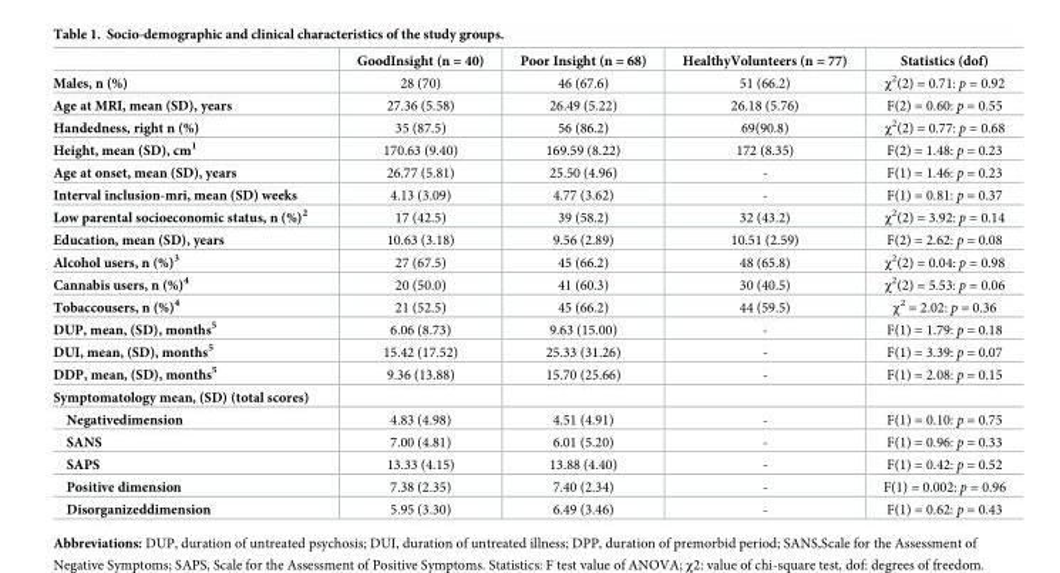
<table><thead><tr><td></td><td>GoodInsight (n = 40)</td><td>Poor Insight (n = 68)</td><td>HealthyVolunteers (n = 77)</td><td>Statistics (dof)</td></tr></thead><tbody><tr><td>Males, n (%)</td><td>28 (70)</td><td>46 (67.6)</td><td>51 (66.2)</td><td>χ<sup>2</sup>(2) = 0.71: p = 0.92</td></tr><tr><td>Age at MRI, mean (SD), years</td><td>27.36 (5.58)</td><td>26.49 (5.22)</td><td>26.18 (5.76)</td><td>F(2) = 0.60: p = 0.55</td></tr><tr><td>Handedness, right n (%)</td><td>35 (87.5)</td><td>56 (86.2)</td><td>69(90.8)</td><td>χ<sup>2</sup>(2) = 0.77: p = 0.68</td></tr><tr><td>Height, mean (SD), cm<sup>1</sup></td><td>170.63 (9.40)</td><td>169.59 (8.22)</td><td>172 (8.35)</td><td>F(2) = 1.48: p = 0.23</td></tr><tr><td>Age at onset, mean (SD), years</td><td>26.77 (5.81)</td><td>25.50 (4.96)</td><td>-</td><td>F(1) = 1.46: p = 0.23</td></tr><tr><td>Interval inclusion-mri, mean (SD) weeks</td><td>4.13 (3.09)</td><td>4.77 (3.62)</td><td>-</td><td>F(1) = 0.81: p = 0.37</td></tr><tr><td>Low parental socioeconomic status, n (%)<sup>2</sup></td><td>17 (42.5)</td><td>39 (58.2)</td><td>32 (43.2)</td><td>χ<sup>2</sup>(2) = 3.92: p = 0.14</td></tr><tr><td>Education, mean (SD), years</td><td>10.63 (3.18)</td><td>9.56 (2.89)</td><td>10.51 (2.59)</td><td>F(2) = 2.62: p = 0.08</td></tr><tr><td>Alcohol users, n (%)<sup>3</sup></td><td>27 (67.5)</td><td>45 (66.2)</td><td>48 (65.8)</td><td>χ<sup>2</sup>(2) = 0.04: p = 0.98</td></tr><tr><td>Cannabis users, n (%)<sup>4</sup></td><td>20 (50.0)</td><td>41 (60.3)</td><td>30 (40.5)</td><td>χ<sup>2</sup>(2) = 5.53: p = 0.06</td></tr><tr><td>Tobaccousers, n (%)<sup>4</sup></td><td>21 (52.5)</td><td>45 (66.2)</td><td>44 (59.5)</td><td>χ<sup>2</sup> = 2.02: p = 0.36</td></tr><tr><td>DUP, mean, (SD), months<sup>5</sup></td><td>6.06 (8.73)</td><td>9.63 (15.00)</td><td>-</td><td>F(1) = 1.79: p = 0.18</td></tr><tr><td>DUI, mean, (SD), months<sup>5</sup></td><td>15.42 (17.52)</td><td>25.33 (31.26)</td><td>-</td><td>F(1) = 3.39: p = 0.07</td></tr><tr><td>DDP, mean, (SD), months<sup>5</sup></td><td>9.36 (13.88)</td><td>15.70 (25.66)</td><td>-</td><td>F(1) = 2.08: p = 0.15</td></tr><tr><td colspan="5">Symptomatology mean, (SD) (total scores)</td></tr><tr><td>Negativedimension</td><td>4.83 (4.98)</td><td>4.51 (4.91)</td><td>-</td><td>F(1) = 0.10: p = 0.75</td></tr><tr><td>SANS</td><td>7.00 (4.81)</td><td>6.01 (5.20)</td><td>-</td><td>F(1) = 0.96: p = 0.33</td></tr><tr><td>SAPS</td><td>13.33 (4.15)</td><td>13.88 (4.40)</td><td>-</td><td>F(1) = 0.42: p = 0.52</td></tr><tr><td>Positive dimension</td><td>7.38 (2.35)</td><td>7.40 (2.34)</td><td>-</td><td>F(1) = 0.002: p = 0.96</td></tr><tr><td>Disorganizeddimension</td><td>5.95 (3.30)</td><td>6.49 (3.46)</td><td>-</td><td>F(1) = 0.62: p = 0.43</td></tr></tbody></table>